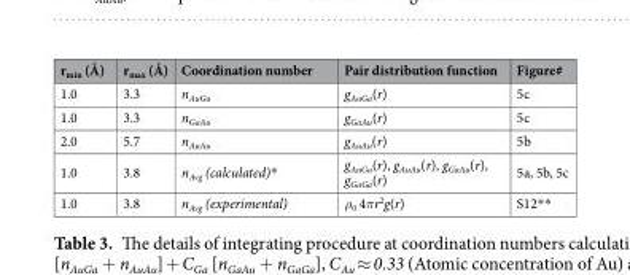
<table><thead><tr><td>r<sub>min</sub> (Å)</td><td>r<sub>max</sub> (Å)</td><td>Coordination number</td><td>Pair distribution function</td><td>Figure#</td></tr></thead><tbody><tr><td>1.0</td><td>3.3</td><td>n<sub>AuGa</sub></td><td>g<sub>AuGa</sub>(r)</td><td>5c</td></tr><tr><td>1.0</td><td>3.3</td><td>n<sub>GaAu</sub></td><td>g<sub>GaAu</sub>(r)</td><td>5c</td></tr><tr><td>2.0</td><td>5.7</td><td>n<sub>AuAu</sub></td><td>g<sub>AuAu</sub>(r)</td><td>5b</td></tr><tr><td>1.0</td><td>3.8</td><td>n<sub>Avg</sub> (calculated)*</td><td>g<sub>AuGa</sub>(r), g<sub>AuAu</sub>(r), g<sub>GaAu</sub>(r), g<sub>GaGa</sub>(r)</td><td>5a, 5b, 5c</td></tr><tr><td>1.0</td><td>3.8</td><td>n<sub>Avg</sub> (experimental)</td><td>ρ<sub>0</sub> 4πr<sup>2</sup>g(r)</td><td>S12**</td></tr></tbody></table>